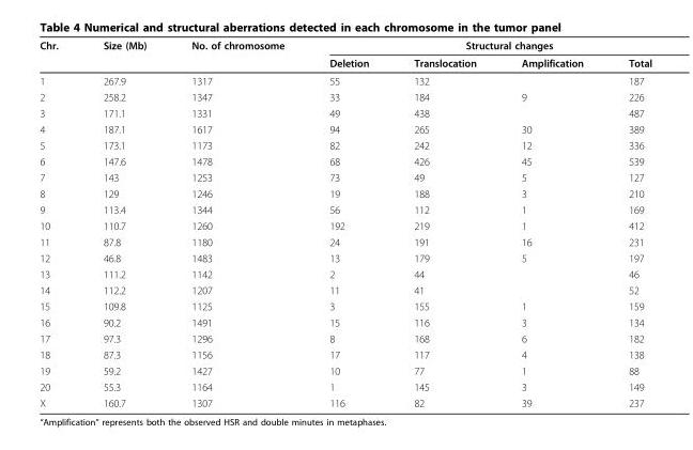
<table><thead><tr><td rowspan="2">Chr.</td><td rowspan="2">Size (Mb)</td><td rowspan="2">No. of chromosome</td><td colspan="4">Structural changes</td></tr><tr><td>Deletion</td><td>Translocation</td><td>Amplification</td><td>Total</td></tr></thead><tbody><tr><td>1</td><td>267.9</td><td>1317</td><td>55</td><td>132</td><td></td><td>187</td></tr><tr><td>2</td><td>258.2</td><td>1347</td><td>33</td><td>184</td><td>9</td><td>226</td></tr><tr><td>3</td><td>171.1</td><td>1331</td><td>49</td><td>438</td><td></td><td>487</td></tr><tr><td>4</td><td>187.1</td><td>1617</td><td>94</td><td>265</td><td>30</td><td>389</td></tr><tr><td>5</td><td>173.1</td><td>1173</td><td>82</td><td>242</td><td>12</td><td>336</td></tr><tr><td>6</td><td>147.6</td><td>1478</td><td>68</td><td>426</td><td>45</td><td>539</td></tr><tr><td>7</td><td>143</td><td>1253</td><td>73</td><td>49</td><td>5</td><td>127</td></tr><tr><td>8</td><td>129</td><td>1246</td><td>19</td><td>188</td><td>3</td><td>210</td></tr><tr><td>9</td><td>113.4</td><td>1344</td><td>56</td><td>112</td><td>1</td><td>169</td></tr><tr><td>10</td><td>110.7</td><td>1260</td><td>192</td><td>219</td><td>1</td><td>412</td></tr><tr><td>11</td><td>87.8</td><td>1180</td><td>24</td><td>191</td><td>16</td><td>231</td></tr><tr><td>12</td><td>46.8</td><td>1483</td><td>13</td><td>179</td><td>5</td><td>197</td></tr><tr><td>13</td><td>111.2</td><td>1142</td><td>2</td><td>44</td><td></td><td>46</td></tr><tr><td>14</td><td>112.2</td><td>1207</td><td>11</td><td>41</td><td></td><td>52</td></tr><tr><td>15</td><td>109.8</td><td>1125</td><td>3</td><td>155</td><td>1</td><td>159</td></tr><tr><td>16</td><td>90.2</td><td>1491</td><td>15</td><td>116</td><td>3</td><td>134</td></tr><tr><td>17</td><td>97.3</td><td>1296</td><td>8</td><td>168</td><td>6</td><td>182</td></tr><tr><td>18</td><td>87.3</td><td>1156</td><td>17</td><td>117</td><td>4</td><td>138</td></tr><tr><td>19</td><td>59.2</td><td>1427</td><td>10</td><td>77</td><td>1</td><td>88</td></tr><tr><td>20</td><td>55.3</td><td>1164</td><td>1</td><td>145</td><td>3</td><td>149</td></tr><tr><td>X</td><td>160.7</td><td>1307</td><td>116</td><td>82</td><td>39</td><td>237</td></tr></tbody></table>